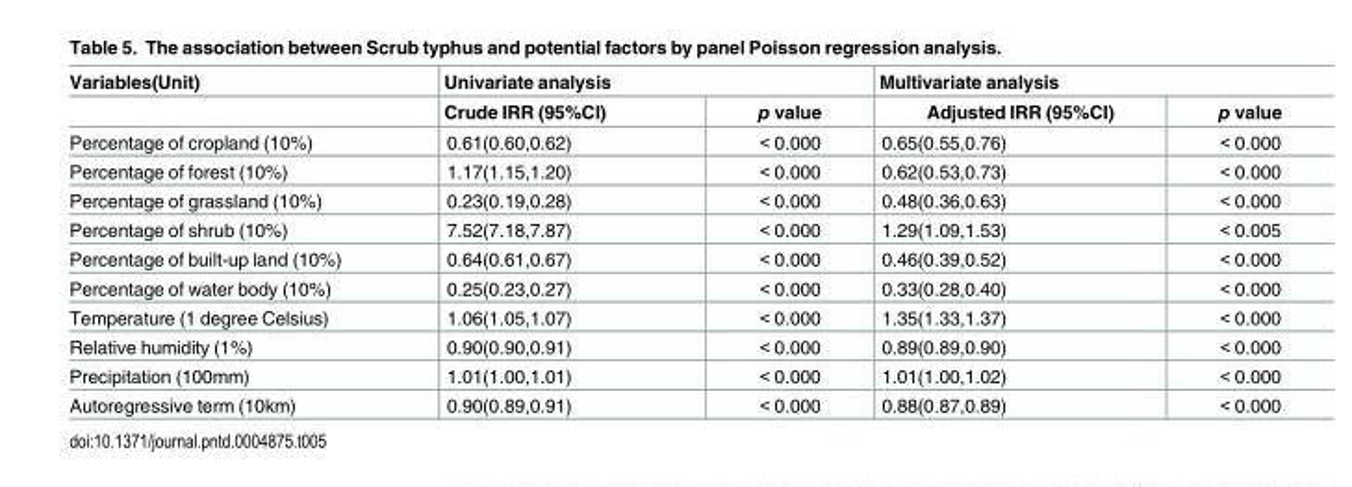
<table><thead><tr><td rowspan="2">Variables(Unit)</td><td colspan="2">Univariate analysis</td><td colspan="2">Multivariate analysis</td></tr><tr><td>Crude IRR (95%CI)</td><td>p value</td><td>Adjusted IRR (95%CI)</td><td>p value</td></tr></thead><tbody><tr><td>Percentage of cropland (10%)</td><td>0.61(0.60,0.62)</td><td>&lt; 0.000</td><td>0.65(0.55,0.76)</td><td>&lt; 0.000</td></tr><tr><td>Percentage of forest (10%)</td><td>1.17(1.15,1.20)</td><td>&lt; 0.000</td><td>0.62(0.53,0.73)</td><td>&lt; 0.000</td></tr><tr><td>Percentage of grassland (10%)</td><td>0.23(0.19,0.28)</td><td>&lt; 0.000</td><td>0.48(0.36,0.63)</td><td>&lt; 0.000</td></tr><tr><td>Percentage of shrub (10%)</td><td>7.52(7.18,7.87)</td><td>&lt; 0.000</td><td>1.29(1.09,1.53)</td><td>&lt; 0.005</td></tr><tr><td>Percentage of built-up land (10%)</td><td>0.64(0.61,0.67)</td><td>&lt; 0.000</td><td>0.46(0.39,0.52)</td><td>&lt; 0.000</td></tr><tr><td>Percentage of water body (10%)</td><td>0.25(0.23,0.27)</td><td>&lt; 0.000</td><td>0.33(0.28,0.40)</td><td>&lt; 0.000</td></tr><tr><td>Temperature (1 degree Celsius)</td><td>1.06(1.05,1.07)</td><td>&lt; 0.000</td><td>1.35(1.33,1.37)</td><td>&lt; 0.000</td></tr><tr><td>Relative humidity (1%)</td><td>0.90(0.90,0.91)</td><td>&lt; 0.000</td><td>0.89(0.89,0.90)</td><td>&lt; 0.000</td></tr><tr><td>Precipitation (100mm)</td><td>1.01(1.00,1.01)</td><td>&lt; 0.000</td><td>1.01(1.00,1.02)</td><td>&lt; 0.000</td></tr><tr><td>Autoregressive term (10km)</td><td>0.90(0.89,0.91)</td><td>&lt; 0.000</td><td>0.88(0.87,0.89)</td><td>&lt; 0.000</td></tr></tbody></table>